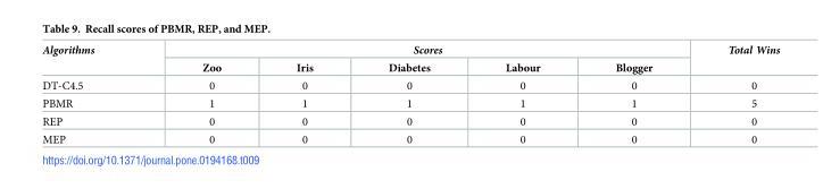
<table><thead><tr><td rowspan="2">Algorithms</td><td colspan="5">Scores</td><td rowspan="2">Total Wins</td></tr><tr><td>Zoo</td><td>Iris</td><td>Diabetes</td><td>Labour</td><td>Blogger</td></tr></thead><tbody><tr><td>DT-C4.5</td><td>0</td><td>0</td><td>0</td><td>0</td><td>0</td><td>0</td></tr><tr><td>PBMR</td><td>1</td><td>1</td><td>1</td><td>1</td><td>1</td><td>5</td></tr><tr><td>REP</td><td>0</td><td>0</td><td>0</td><td>0</td><td>0</td><td>0</td></tr><tr><td>MEP</td><td>0</td><td>0</td><td>0</td><td>0</td><td>0</td><td>0</td></tr></tbody></table>